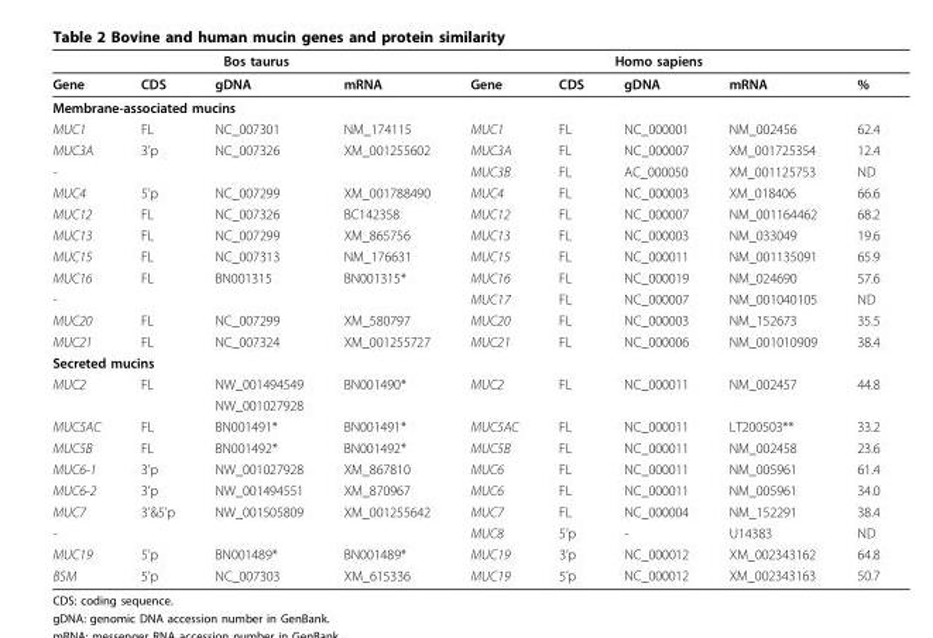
<table><thead><tr><td colspan="4">Bos taurus</td><td colspan="4">Homo sapiens</td><td rowspan="2">%</td></tr><tr><td>Gene</td><td>CDS</td><td>gDNA</td><td>mRNA</td><td>Gene</td><td>CDS</td><td>gDNA</td><td>mRNA</td></tr></thead><tbody><tr><td colspan="9">Membrane-associated mucins</td></tr><tr><td>MUC1</td><td>FL</td><td>NC_007301</td><td>NM_174115</td><td>MUC1</td><td>FL</td><td>NC_000001</td><td>NM_002456</td><td>62.4</td></tr><tr><td>MUC3A</td><td>3’p</td><td>NC_007326</td><td>XM_001255602</td><td>MUC3A</td><td>FL</td><td>NC_000007</td><td>XM_001725354</td><td>12.4</td></tr><tr><td>-</td><td></td><td></td><td></td><td>MUC3B</td><td>FL</td><td>AC_000050</td><td>XM_001125753</td><td>ND</td></tr><tr><td>MUC4</td><td>5’p</td><td>NC_007299</td><td>XM_001788490</td><td>MUC4</td><td>FL</td><td>NC_000003</td><td>XM_018406</td><td>66.6</td></tr><tr><td>MUC12</td><td>FL</td><td>NC_007326</td><td>BC142358</td><td>MUC12</td><td>FL</td><td>NC_000007</td><td>NM_001164462</td><td>68.2</td></tr><tr><td>MUC13</td><td>FL</td><td>NC_007299</td><td>XM_865756</td><td>MUC13</td><td>FL</td><td>NC_000003</td><td>NM_033049</td><td>19.6</td></tr><tr><td>MUC15</td><td>FL</td><td>NC_007313</td><td>NM_176631</td><td>MUC15</td><td>FL</td><td>NC_000011</td><td>NM_001135091</td><td>65.9</td></tr><tr><td>MUC16</td><td>FL</td><td>BN001315</td><td>BN001315*</td><td>MUC16</td><td>FL</td><td>NC_000019</td><td>NM_024690</td><td>57.6</td></tr><tr><td>-</td><td></td><td></td><td></td><td>MUC17</td><td>FL</td><td>NC_000007</td><td>NM_001040105</td><td>ND</td></tr><tr><td>MUC20</td><td>FL</td><td>NC_007299</td><td>XM_580797</td><td>MUC20</td><td>FL</td><td>NC_000003</td><td>NM_152673</td><td>35.5</td></tr><tr><td>MUC21</td><td>FL</td><td>NC_007324</td><td>XM_001255727</td><td>MUC21</td><td>FL</td><td>NC_000006</td><td>NM_001010909</td><td>38.4</td></tr><tr><td colspan="9">Secreted mucins</td></tr><tr><td rowspan="2">MUC2</td><td>FL</td><td>NW_001494549</td><td>BN001490*</td><td>MUC2</td><td>FL</td><td>NC_000011</td><td>NM_002457</td><td>44.8</td></tr><tr><td></td><td>NW_001027928</td><td></td><td></td><td></td><td></td><td></td><td></td></tr><tr><td>MUC5AC</td><td>FL</td><td>BN001491*</td><td>BN001491*</td><td>MUC5AC</td><td>FL</td><td>NC_000011</td><td>LT200503**</td><td>33.2</td></tr><tr><td>MUC5B</td><td>FL</td><td>BN001492*</td><td>BN001492*</td><td>MUC5B</td><td>FL</td><td>NC_000011</td><td>NM_002458</td><td>23.6</td></tr><tr><td>MUC6-1</td><td>3’p</td><td>NW_001027928</td><td>XM_867810</td><td>MUC6</td><td>FL</td><td>NC_000011</td><td>NM_005961</td><td>61.4</td></tr><tr><td>MUC6-2</td><td>3’p</td><td>NW_001494551</td><td>XM_870967</td><td>MUC6</td><td>FL</td><td>NC_000011</td><td>NM_005961</td><td>34.0</td></tr><tr><td>MUC7</td><td>3’&amp;5’p</td><td>NW_001505809</td><td>XM_001255642</td><td>MUC7</td><td>FL</td><td>NC_000004</td><td>NM_152291</td><td>38.4</td></tr><tr><td>-</td><td></td><td></td><td></td><td>MUC8</td><td>5’p</td><td>-</td><td>U14383</td><td>ND</td></tr><tr><td>MUC19</td><td>5’p</td><td>BN001489*</td><td>BN001489*</td><td>MUC19</td><td>3’p</td><td>NC_000012</td><td>XM_002343162</td><td>64.8</td></tr><tr><td>BSM</td><td>5’p</td><td>NC_007303</td><td>XM_615336</td><td>MUC19</td><td>5’p</td><td>NC_000012</td><td>XM_002343163</td><td>50.7</td></tr></tbody></table>